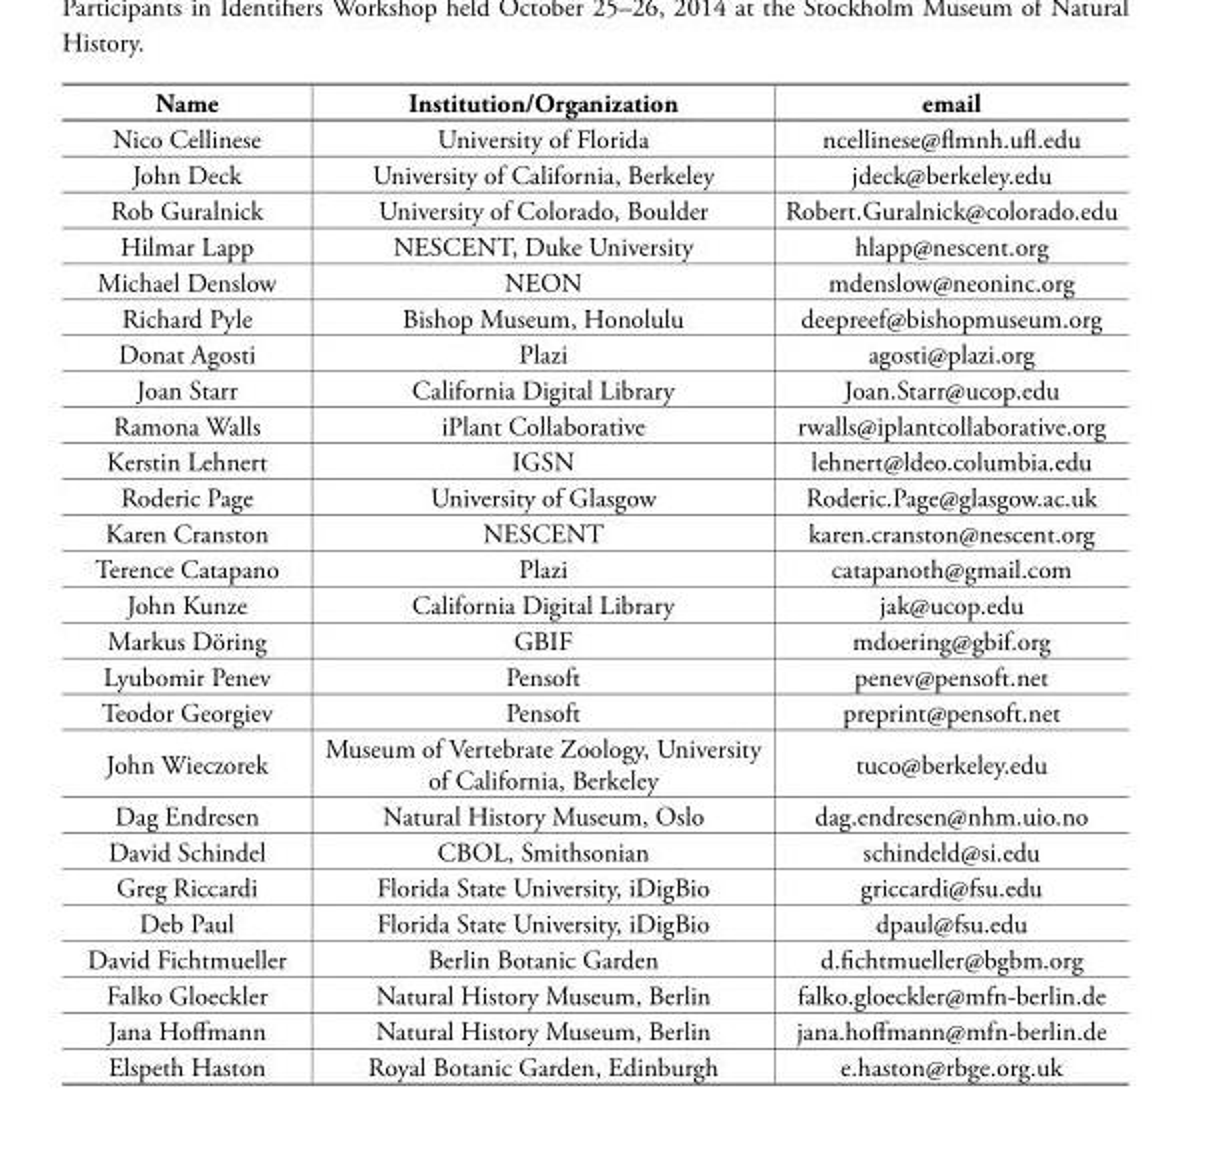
<table><thead><tr><td>Name</td><td>Institution/Organization</td><td>email</td></tr></thead><tbody><tr><td>Nico Cellinese</td><td>University of Florida</td><td>ncellinese@flmnh.ufl.edu</td></tr><tr><td>John Deck</td><td>University of California, Berkeley</td><td>jdeck@berkeley.edu</td></tr><tr><td>Rob Guralnick</td><td>University of Colorado, Boulder</td><td>Robert.Guralnick@colorado.edu</td></tr><tr><td>Hilmar Lapp</td><td>NESCENT, Duke University</td><td>hlapp@nescent.org</td></tr><tr><td>Michael Denslow</td><td>NEON</td><td>mdenslow@neoninc.org</td></tr><tr><td>Richard Pyle</td><td>Bishop Museum, Honolulu</td><td>deepreef@bishopmuseum.org</td></tr><tr><td>Donat Agosti</td><td>Plazi</td><td>agosti@plazi.org</td></tr><tr><td>Joan Starr</td><td>California Digital Library</td><td>Joan.Starr@ucop.edu</td></tr><tr><td>Ramona Walls</td><td>iPlant Collaborative</td><td>rwalls@iplantcollaborative.org</td></tr><tr><td>Kerstin Lehnert</td><td>IGSN</td><td>lehnert@ldeo.columbia.edu</td></tr><tr><td>Roderic Page</td><td>University of Glasgow</td><td>Roderic.Page@glasgow.ac.uk</td></tr><tr><td>Karen Cranston</td><td>NESCENT</td><td>karen.cranston@nescent.org</td></tr><tr><td>Terence Catapano</td><td>Plazi</td><td>catapanoth@gmail.com</td></tr><tr><td>John Kunze</td><td>California Digital Library</td><td>jak@ucop.edu</td></tr><tr><td>Markus Döring</td><td>GBIF</td><td>mdoering@gbif.org</td></tr><tr><td>Lyubomir Penev</td><td>Pensoft</td><td>penev@pensoft.net</td></tr><tr><td>Teodor Georgiev</td><td>Pensoft</td><td>preprint@pensoft.net</td></tr><tr><td>John Wieczorek</td><td>Museum of Vertebrate Zoology, University of California, Berkeley</td><td>tuco@berkeley.edu</td></tr><tr><td>Dag Endresen</td><td>Natural History Museum, Oslo</td><td>dag.endresen@nhm.uio.no</td></tr><tr><td>David Schindel</td><td>CBOL, Smithsonian</td><td>schindeld@si.edu</td></tr><tr><td>Greg Riccardi</td><td>Florida State University, iDigBio</td><td>griccardi@fsu.edu</td></tr><tr><td>Deb Paul</td><td>Florida State University, iDigBio</td><td>dpaul@fsu.edu</td></tr><tr><td>David Fichtmueller</td><td>Berlin Botanic Garden</td><td>d.fichtmueller@bgbm.org</td></tr><tr><td>Falko Gloeckler</td><td>Natural History Museum, Berlin</td><td>falko.gloeckler@mfn-berlin.de</td></tr><tr><td>Jana Hoffmann</td><td>Natural History Museum, Berlin</td><td>jana.hoffmann@mfn-berlin.de</td></tr><tr><td>Elspeth Haston</td><td>Royal Botanic Garden, Edinburgh</td><td>e.haston@rbge.org.uk</td></tr></tbody></table>